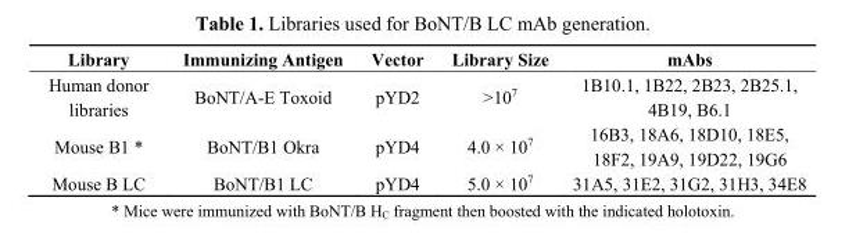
<table><thead><tr><td>Library</td><td>Immunizing Antigen</td><td>Vector</td><td>Library Size</td><td>mAbs</td></tr></thead><tbody><tr><td>Human donor libraries</td><td>BoNT/A-E Toxoid</td><td>pYD2</td><td>&gt;10<sup>7</sup></td><td>1B10.1, 1B22, 2B23, 2B25.1, 4B19, B6.1</td></tr><tr><td>Mouse B1 *</td><td>BoNT/B1 Okra</td><td>pYD4</td><td>4.0 × 10<sup>7</sup></td><td>16B3, 18A6, 18D10, 18E5, 18F2, 19A9, 19D22, 19G6</td></tr><tr><td>Mouse B LC</td><td>BoNT/B1 LC</td><td>pYD4</td><td>5.0 × 10<sup>7</sup></td><td>31A5, 31E2, 31G2, 31H3, 34E8</td></tr></tbody></table>